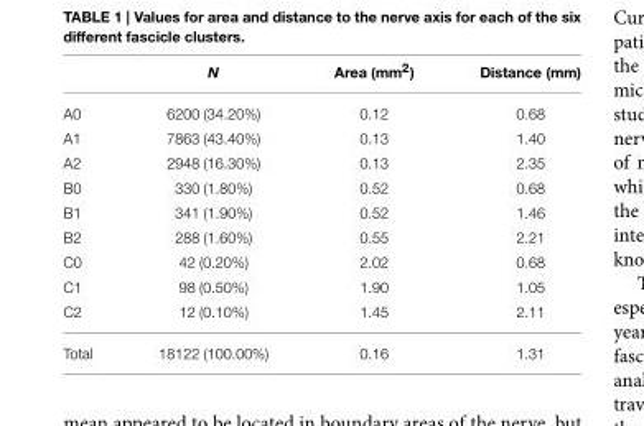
<table><thead><tr><td></td><td>N</td><td>Area (mm<sup>2</sup>)</td><td>Distance (mm)</td></tr></thead><tbody><tr><td>A0</td><td>6200 (34.20%)</td><td>0.12</td><td>0.68</td></tr><tr><td>A1</td><td>7863 (43.40%)</td><td>0.13</td><td>1.40</td></tr><tr><td>A2</td><td>2948 (16.30%)</td><td>0.13</td><td>2.35</td></tr><tr><td>B0</td><td>330 (1.80%)</td><td>0.52</td><td>0.68</td></tr><tr><td>B1</td><td>341 (1.90%)</td><td>0.52</td><td>1.46</td></tr><tr><td>B2</td><td>288 (1.60%)</td><td>0.55</td><td>2.21</td></tr><tr><td>C0</td><td>42 (0.20%)</td><td>2.02</td><td>0.68</td></tr><tr><td>C1</td><td>98 (0.50%)</td><td>1.90</td><td>1.05</td></tr><tr><td>C2</td><td>12 (0.10%)</td><td>1.45</td><td>2.11</td></tr><tr><td>Total</td><td>18122 (100.00%)</td><td>0.16</td><td>1.31</td></tr></tbody></table>